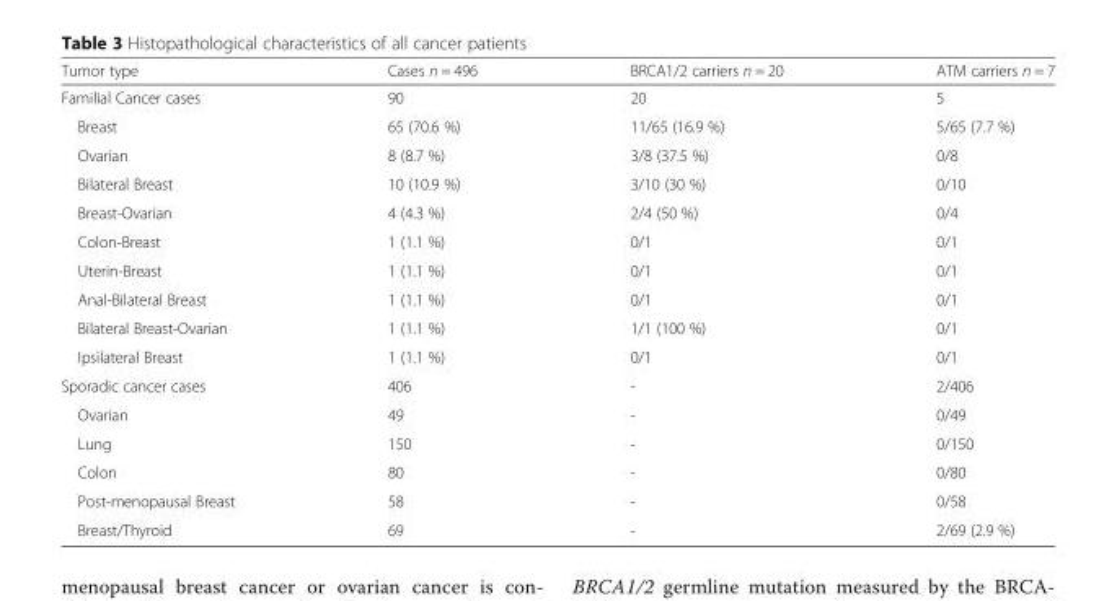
<table><thead><tr><td>Tumor type</td><td>Cases n = 496</td><td>BRCA1/2 carriers n = 20</td><td>ATM carriers n = 7</td></tr></thead><tbody><tr><td>Familial Cancer cases</td><td>90</td><td>20</td><td>5</td></tr><tr><td>Breast</td><td>65 (70.6 %)</td><td>11/65 (16.9 %)</td><td>5/65 (7.7 %)</td></tr><tr><td>Ovarian</td><td>8 (8.7 %)</td><td>3/8 (37.5 %)</td><td>0/8</td></tr><tr><td>Bilateral Breast</td><td>10 (10.9 %)</td><td>3/10 (30 %)</td><td>0/10</td></tr><tr><td>Breast-Ovarian</td><td>4 (4.3 %)</td><td>2/4 (50 %)</td><td>0/4</td></tr><tr><td>Colon-Breast</td><td>1 (1.1 %)</td><td>0/1</td><td>0/1</td></tr><tr><td>Uterin-Breast</td><td>1 (1.1 %)</td><td>0/1</td><td>0/1</td></tr><tr><td>Anal-Bilateral Breast</td><td>1 (1.1 %)</td><td>0/1</td><td>0/1</td></tr><tr><td>Bilateral Breast-Ovarian</td><td>1 (1.1 %)</td><td>1/1 (100 %)</td><td>0/1</td></tr><tr><td>Ipsilateral Breast</td><td>1 (1.1 %)</td><td>0/1</td><td>0/1</td></tr><tr><td>Sporadic cancer cases</td><td>406</td><td>-</td><td>2/406</td></tr><tr><td>Ovarian</td><td>49</td><td>-</td><td>0/49</td></tr><tr><td>Lung</td><td>150</td><td>-</td><td>0/150</td></tr><tr><td>Colon</td><td>80</td><td>-</td><td>0/80</td></tr><tr><td>Post-menopausal Breast</td><td>58</td><td>-</td><td>0/58</td></tr><tr><td>Breast/Thyroid</td><td>69</td><td>-</td><td>2/69 (2.9 %)</td></tr></tbody></table>